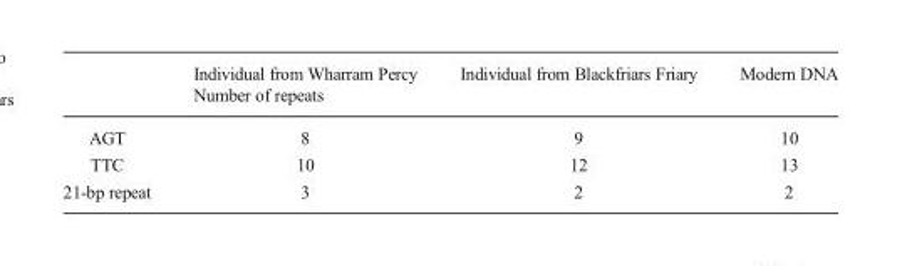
<table><thead><tr><td rowspan="2"></td><td>Individual from Wharram Percy</td><td>Individual from Blackfriars Friary</td><td>Modern DNA</td></tr><tr><td colspan="3">Number of repeats</td></tr></thead><tbody><tr><td>AGT</td><td>8</td><td>9</td><td>10</td></tr><tr><td>TTC</td><td>10</td><td>12</td><td>13</td></tr><tr><td>21-bp repeat</td><td>3</td><td>2</td><td>2</td></tr></tbody></table>